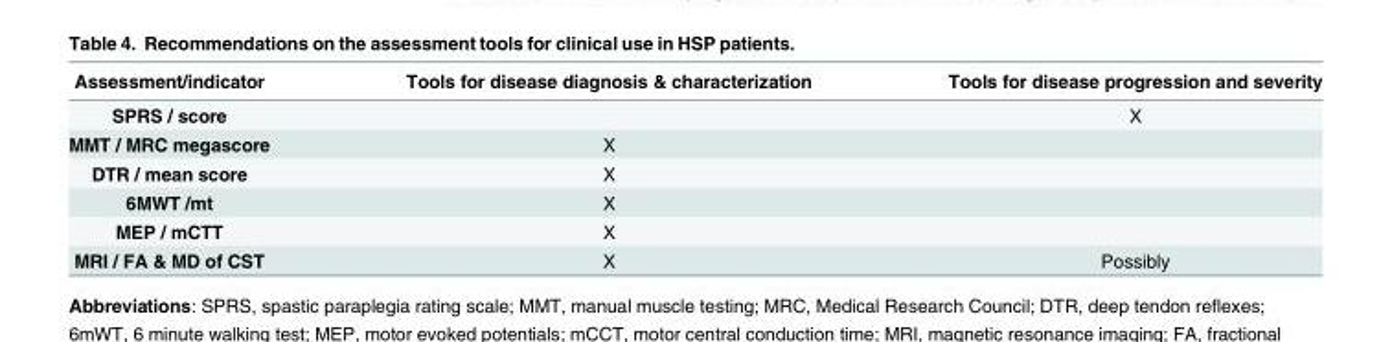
<table><thead><tr><td>Assessment/indicator</td><td>Tools for disease diagnosis &amp; characterization</td><td>Tools for disease progression and severity</td></tr></thead><tbody><tr><td>SPRS / score</td><td></td><td>X</td></tr><tr><td>MMT / MRC megascore</td><td>X</td><td></td></tr><tr><td>DTR / mean score</td><td>X</td><td></td></tr><tr><td>6MWT /mt</td><td>X</td><td></td></tr><tr><td>MEP / mCTT</td><td>X</td><td></td></tr><tr><td>MRI / FA &amp; MD of CST</td><td>X</td><td>Possibly</td></tr></tbody></table>